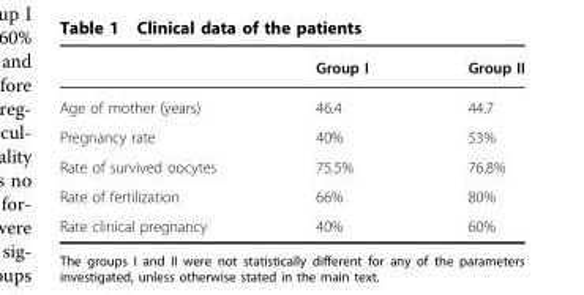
<table><thead><tr><td></td><td>Group I</td><td>Group II</td></tr></thead><tbody><tr><td>Age of mother (years)</td><td>46.4</td><td>44.7</td></tr><tr><td>Pregnancy rate</td><td>40%</td><td>53%</td></tr><tr><td>Rate of survived oocytes</td><td>75.5%</td><td>76.8%</td></tr><tr><td>Rate of fertilization</td><td>66%</td><td>80%</td></tr><tr><td>Rate clinical pregnancy</td><td>40%</td><td>60%</td></tr></tbody></table>